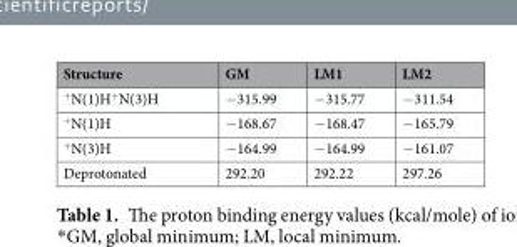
<table><thead><tr><td>Structure</td><td>GM</td><td>LM1</td><td>LM2</td></tr></thead><tbody><tr><td><sup>+</sup>N(1)H<sup>+</sup>N(3)H</td><td>−315.99</td><td>−315.77</td><td>−311.54</td></tr><tr><td><sup>+</sup>N(1)H</td><td>−168.67</td><td>−168.47</td><td>−165.79</td></tr><tr><td><sup>+</sup>N(3)H</td><td>−164.99</td><td>−164.99</td><td>−161.07</td></tr><tr><td>Deprotonated</td><td>292.20</td><td>292.22</td><td>297.26</td></tr></tbody></table>